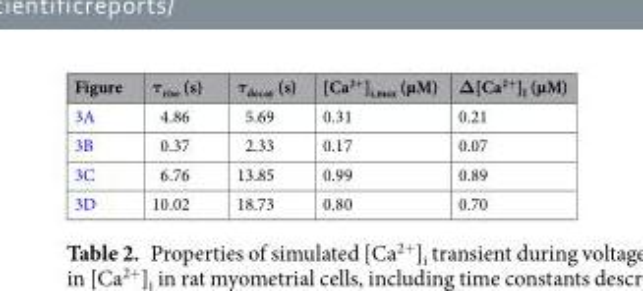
<table><thead><tr><td>Figure</td><td>τ<sub>rise</sub> (s)</td><td>τ<sub>decay</sub> (s)</td><td>[Ca<sup>2+</sup>]<sub>i,max</sub> (µM)</td><td>Δ[Ca<sup>2+</sup>]<sub>I</sub> (µM)</td></tr></thead><tbody><tr><td>3A</td><td>4.86</td><td>5.69</td><td>0.31</td><td>0.21</td></tr><tr><td>3B</td><td>0.37</td><td>2.33</td><td>0.17</td><td>0.07</td></tr><tr><td>3C</td><td>6.76</td><td>13.85</td><td>0.99</td><td>0.89</td></tr><tr><td>3D</td><td>10.02</td><td>18.73</td><td>0.80</td><td>0.70</td></tr></tbody></table>